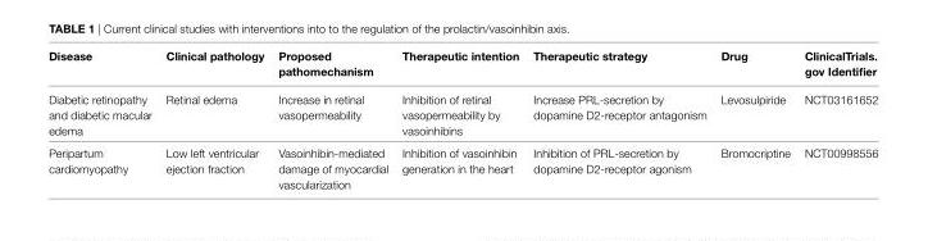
<table><thead><tr><td>Disease</td><td>Clinical pathology</td><td>Proposed pathomechanism</td><td>Therapeutic intention</td><td>Therapeutic strategy</td><td>Drug</td><td>ClinicalTrials. gov identifier</td></tr></thead><tbody><tr><td>Diabetic retinopathy and diabetic macular edema</td><td>Retinal edema</td><td>Increase in retinal vasopermeability</td><td>Inhibition of retinal vasopermeability by vasoinhibins</td><td>Increase PRL-secretion by dopamine D2-receptor antagonism</td><td>Levosulpiride</td><td>NCT03161652</td></tr><tr><td>Peripartum cardiomyopathy</td><td>Low left ventricular ejection fraction</td><td>Vasoinhibin-mediated damage of myocardial vascularization</td><td>Inhibition of vasoinhibin generation in the heart</td><td>Inhibition of PRL-secretion by dopamine D2-receptor agonism</td><td>Bromocriptine</td><td>NCT00998556</td></tr></tbody></table>